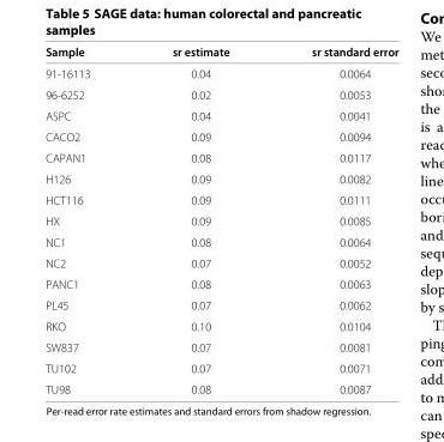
<table><thead><tr><td>Sample</td><td>sr estimate</td><td>sr standard error</td></tr></thead><tbody><tr><td>91-16113</td><td>0.04</td><td>0.0064</td></tr><tr><td>96-6252</td><td>0.02</td><td>0.0053</td></tr><tr><td>ASPC</td><td>0.04</td><td>0.0041</td></tr><tr><td>CACO2</td><td>0.09</td><td>0.0094</td></tr><tr><td>CAPAN1</td><td>0.08</td><td>0.0117</td></tr><tr><td>H126</td><td>0.09</td><td>0.0082</td></tr><tr><td>HCT116</td><td>0.09</td><td>0.0111</td></tr><tr><td>HX</td><td>0.09</td><td>0.0085</td></tr><tr><td>NC1</td><td>0.08</td><td>0.0064</td></tr><tr><td>NC2</td><td>0.07</td><td>0.0052</td></tr><tr><td>PANC1</td><td>0.08</td><td>0.0063</td></tr><tr><td>PL45</td><td>0.07</td><td>0.0062</td></tr><tr><td>RKO</td><td>0.10</td><td>0.0104</td></tr><tr><td>SW837</td><td>0.07</td><td>0.0081</td></tr><tr><td>TU102</td><td>0.07</td><td>0.0071</td></tr><tr><td>TU98</td><td>0.08</td><td>0.0087</td></tr></tbody></table>